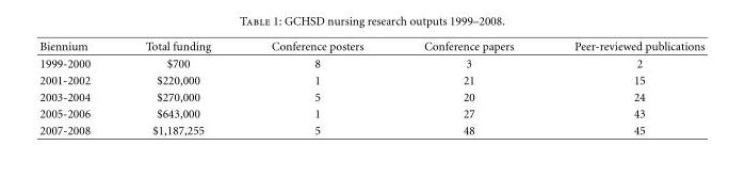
<table><thead><tr><td>Biennium</td><td>Total funding</td><td>Conference posters</td><td>Conference papers</td><td>Peer-reviewed publications</td></tr></thead><tbody><tr><td>1999-2000</td><td>$700</td><td>8</td><td>3</td><td>2</td></tr><tr><td>2001-2002</td><td>$220,000</td><td>1</td><td>21</td><td>15</td></tr><tr><td>2003-2004</td><td>$270,000</td><td>5</td><td>20</td><td>24</td></tr><tr><td>2005-2006</td><td>$643,000</td><td>1</td><td>27</td><td>43</td></tr><tr><td>2007-2008</td><td>$1,187,255</td><td>5</td><td>48</td><td>45</td></tr></tbody></table>